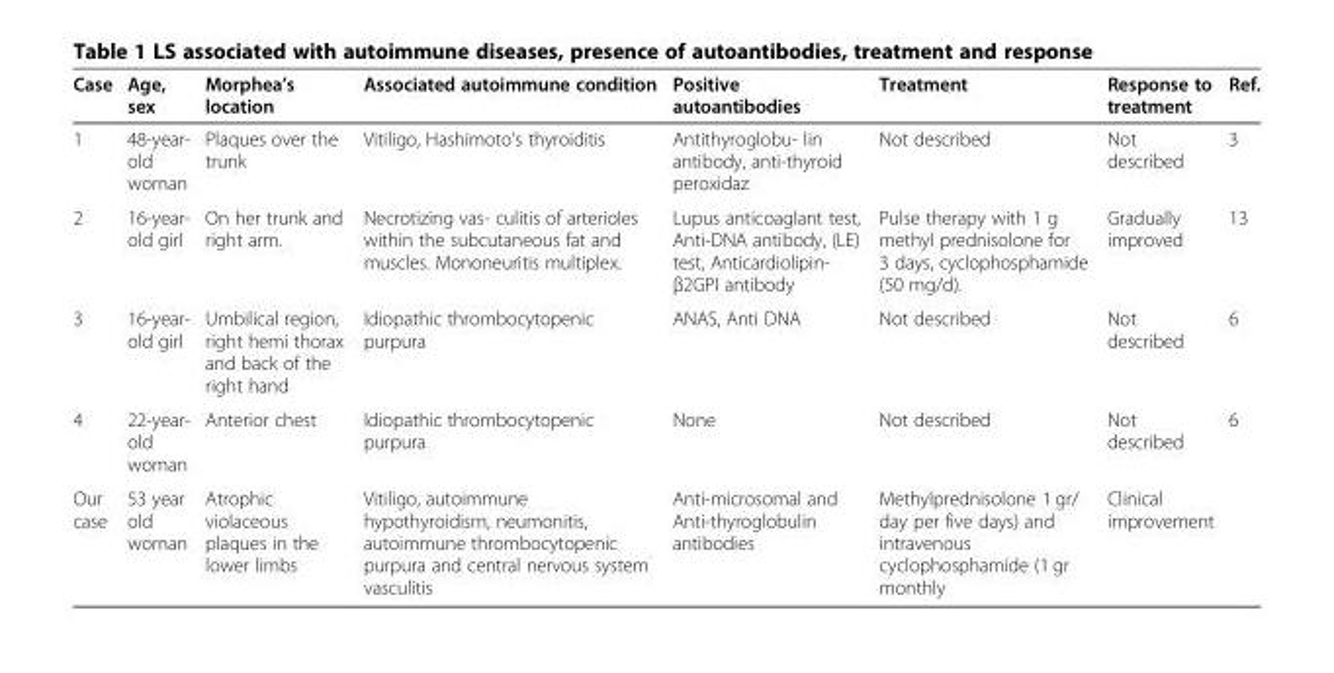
<table><thead><tr><td>Case</td><td>Age, sex</td><td>Morphea’s location</td><td>Associated autoimmune condition</td><td>Positive autoantibodies</td><td>Treatment</td><td>Response to treatment</td><td>Ref.</td></tr></thead><tbody><tr><td>1</td><td>48-year- old woman</td><td>Plaques over the trunk</td><td>Vitiligo, Hashimoto’s thyroiditis</td><td>Antithyroglobu- lin antibody, anti-thyroid peroxidaz</td><td>Not described</td><td>Not described</td><td>3</td></tr><tr><td>2</td><td>16-year- old girl</td><td>On her trunk and right arm.</td><td>Necrotizing vas- culitis of arterioles within the subcutaneous fat and muscles. Mononeuritis multiplex.</td><td>Lupus anticoaglant test, Anti-DNA antibody, (LE) test, Anticardiolipin- β2GPI antibody</td><td>Pulse therapy with 1 g methyl prednisolone for 3 days, cyclophosphamide (50 mg/d).</td><td>Gradually improved</td><td>13</td></tr><tr><td>3</td><td>16-year- old girl</td><td>Umbilical region, right hemi thorax and back of the right hand</td><td>Idiopathic thrombocytopenic purpura</td><td>ANAS, Anti DNA</td><td>Not described</td><td>Not described</td><td>6</td></tr><tr><td>4</td><td>22-year- old woman</td><td>Anterior chest</td><td>Idiopathic thrombocytopenic purpura</td><td>None</td><td>Not described</td><td>Not described</td><td>6</td></tr><tr><td>Our case</td><td>53 year old woman</td><td>Atrophic violaceous plaques in the lower limbs</td><td>Vitiligo, autoimmune hypothyroidism, neumonitis, autoimmune thrombocytopenic purpura and central nervous system vasculitis</td><td>Anti-microsomal and Anti-thyroglobulin antibodies</td><td>Methylprednisolone 1 gr/ day per five days) and intravenous cyclophosphamide (1 gr monthly</td><td>Clinical improvement</td><td></td></tr></tbody></table>